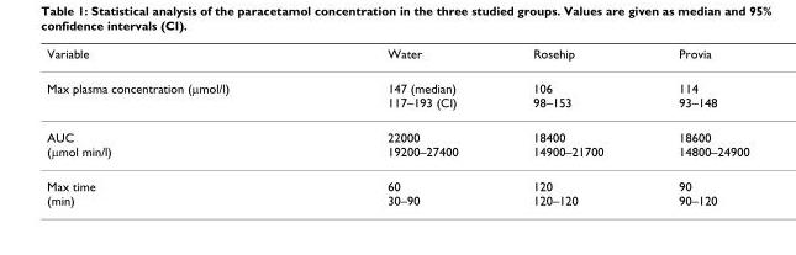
<table><thead><tr><td>Variable</td><td>Water</td><td>Rosehip</td><td>Provia</td></tr></thead><tbody><tr><td>Max plasma concentration (μmol/l)</td><td>147 (median) 117–193 (CI)</td><td>106 98–153</td><td>114 93–148</td></tr><tr><td>AUC (μmol min/l)</td><td>22000 19200–27400</td><td>18400 14900–21700</td><td>18600 14800–24900</td></tr><tr><td>Max time (min)</td><td>60 30–90</td><td>120 120–120</td><td>90 90–120</td></tr></tbody></table>